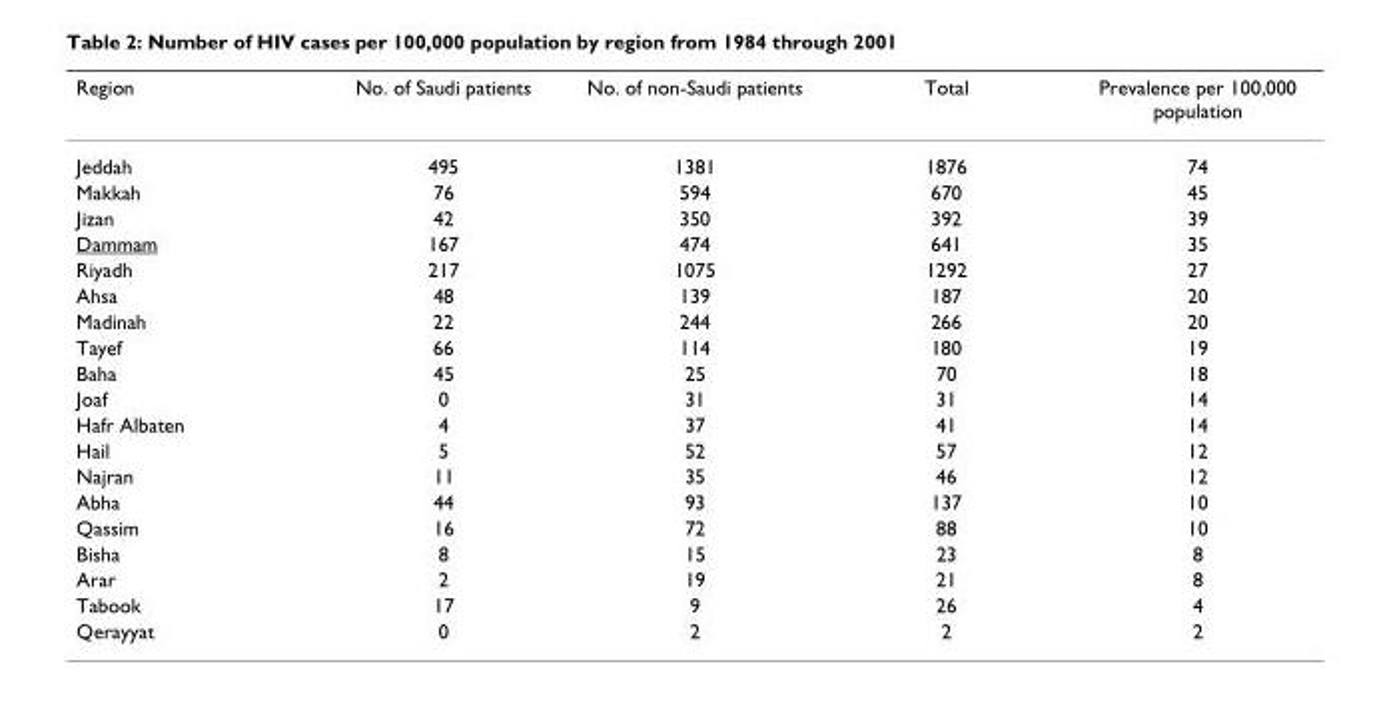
<table><thead><tr><td>Region</td><td>No. of Saudi patients</td><td>No. of non-Saudi patients</td><td>Total</td><td>Prevalence per 100,000 population</td></tr></thead><tbody><tr><td>Jeddah</td><td>495</td><td>1381</td><td>1876</td><td>74</td></tr><tr><td>Makkah</td><td>76</td><td>594</td><td>670</td><td>45</td></tr><tr><td>Jizan</td><td>42</td><td>350</td><td>392</td><td>39</td></tr><tr><td>Dammam</td><td>167</td><td>474</td><td>641</td><td>35</td></tr><tr><td>Riyadh</td><td>217</td><td>1075</td><td>1292</td><td>27</td></tr><tr><td>Ahsa</td><td>48</td><td>139</td><td>187</td><td>20</td></tr><tr><td>Madinah</td><td>22</td><td>244</td><td>266</td><td>20</td></tr><tr><td>Tayef</td><td>66</td><td>114</td><td>180</td><td>19</td></tr><tr><td>Baha</td><td>45</td><td>25</td><td>70</td><td>18</td></tr><tr><td>Joaf</td><td>0</td><td>31</td><td>31</td><td>14</td></tr><tr><td>Hafr Albaten</td><td>4</td><td>37</td><td>41</td><td>14</td></tr><tr><td>Hail</td><td>5</td><td>52</td><td>57</td><td>12</td></tr><tr><td>Najran</td><td>11</td><td>35</td><td>46</td><td>12</td></tr><tr><td>Abha</td><td>44</td><td>93</td><td>137</td><td>10</td></tr><tr><td>Qassim</td><td>16</td><td>72</td><td>88</td><td>10</td></tr><tr><td>Bisha</td><td>8</td><td>15</td><td>23</td><td>8</td></tr><tr><td>Arar</td><td>2</td><td>19</td><td>21</td><td>8</td></tr><tr><td>Tabook</td><td>17</td><td>9</td><td>26</td><td>4</td></tr><tr><td>Qerayyat</td><td>0</td><td>2</td><td>2</td><td>2</td></tr></tbody></table>